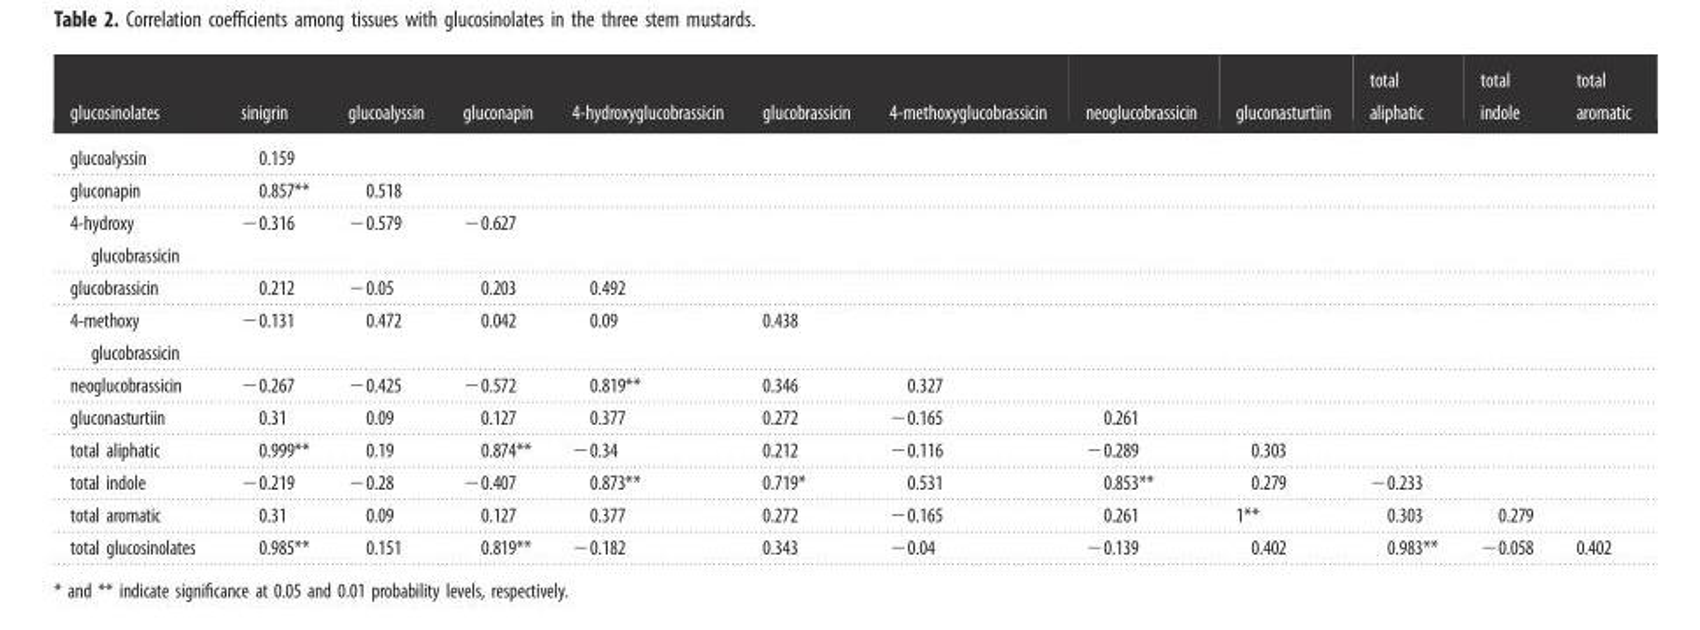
<table><thead><tr><td>glucosinolates</td><td>sinigrin</td><td>glucoalyssin</td><td>gluconapin</td><td>4-hydroxyglucobrassicin</td><td>glucobrassicin</td><td>4-methoxyglucobrassicin</td><td>neoglucobrassicin</td><td>gluconasturtiin</td><td>total aliphatic</td><td>total indole</td><td>total aromatic</td></tr></thead><tbody><tr><td>glucoalyssin</td><td>0.159</td><td></td><td></td><td></td><td></td><td></td><td></td><td></td><td></td><td></td><td></td></tr><tr><td>gluconapin</td><td>0.857**</td><td>0.518</td><td></td><td></td><td></td><td></td><td></td><td></td><td></td><td></td><td></td></tr><tr><td>4-hydroxy glucobrassicin</td><td>−0.316</td><td>−0.579</td><td>−0.627</td><td></td><td></td><td></td><td></td><td></td><td></td><td></td><td></td></tr><tr><td>glucobrassicin</td><td>0.212</td><td>−0.05</td><td>0.203</td><td>0.492</td><td></td><td></td><td></td><td></td><td></td><td></td><td></td></tr><tr><td>4-methoxy glucobrassicin</td><td>−0.131</td><td>0.472</td><td>0.042</td><td>0.09</td><td>0.438</td><td></td><td></td><td></td><td></td><td></td><td></td></tr><tr><td>neoglucobrassicin</td><td>−0.267</td><td>−0.425</td><td>−0.572</td><td>0.819**</td><td>0.346</td><td>0.327</td><td></td><td></td><td></td><td></td><td></td></tr><tr><td>gluconasturtiin</td><td>0.31</td><td>0.09</td><td>0.127</td><td>0.377</td><td>0.272</td><td>−0.165</td><td>0.261</td><td></td><td></td><td></td><td></td></tr><tr><td>total aliphatic</td><td>0.999**</td><td>0.19</td><td>0.874**</td><td>−0.34</td><td>0.212</td><td>−0.116</td><td>−0.289</td><td>0.303</td><td></td><td></td><td></td></tr><tr><td>total indole</td><td>−0.219</td><td>−0.28</td><td>−0.407</td><td>0.873**</td><td>0.719*</td><td>0.531</td><td>0.853**</td><td>0.279</td><td>−0.233</td><td></td><td></td></tr><tr><td>total aromatic</td><td>0.31</td><td>0.09</td><td>0.127</td><td>0.377</td><td>0.272</td><td>−0.165</td><td>0.261</td><td>1**</td><td>0.303</td><td>0.279</td><td></td></tr><tr><td>total glucosinolates</td><td>0.985**</td><td>0.151</td><td>0.819**</td><td>−0.182</td><td>0.343</td><td>−0.04</td><td>−0.139</td><td>0.402</td><td>0.983**</td><td>−0.058</td><td>0.402</td></tr></tbody></table>